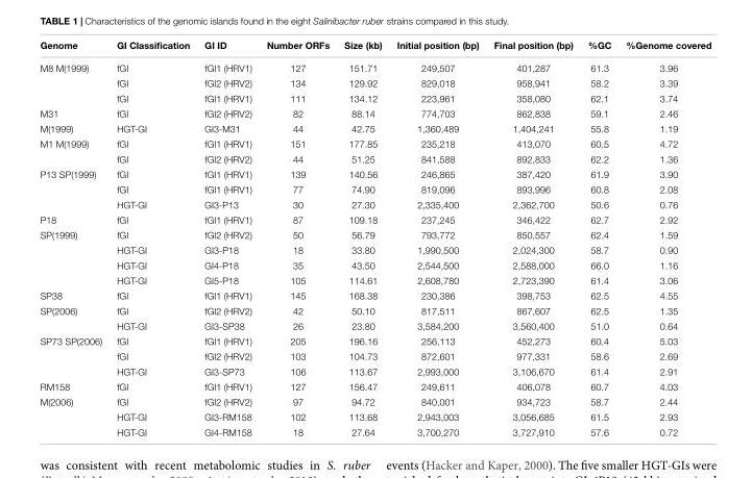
<table><thead><tr><td>Genome</td><td>GI Classification</td><td>GI ID</td><td>Number ORFs</td><td>Size (kb)</td><td>Initial position (bp)</td><td>Final position (bp)</td><td>%GC</td><td>%Genome covered</td></tr></thead><tbody><tr><td rowspan="3">M8 M(1999)</td><td>fGI</td><td>fGI1 (HRV1)</td><td>127</td><td>151.71</td><td>249,507</td><td>401,287</td><td>61.3</td><td>3.96</td></tr><tr><td>fGI</td><td>fGI2 (HRV2)</td><td>134</td><td>129.92</td><td>829,018</td><td>958,941</td><td>58.2</td><td>3.39</td></tr><tr><td>fGI</td><td>fGI1 (HRV1)</td><td>111</td><td>134.12</td><td>223,961</td><td>358,080</td><td>62.1</td><td>3.74</td></tr><tr><td>M31</td><td>fGI</td><td>fGI2 (HRV2)</td><td>82</td><td>88.14</td><td>774,703</td><td>862,838</td><td>59.1</td><td>2.46</td></tr><tr><td>M(1999)</td><td>HGT-GI</td><td>GI3-M31</td><td>44</td><td>42.75</td><td>1,360,489</td><td>1,404,241</td><td>55.8</td><td>1.19</td></tr><tr><td rowspan="2">M1 M(1999)</td><td>fGI</td><td>fGI1 (HRV1)</td><td>151</td><td>177.85</td><td>235,218</td><td>413,070</td><td>60.5</td><td>4.72</td></tr><tr><td>fGI</td><td>fGI2 (HRV2)</td><td>44</td><td>51.25</td><td>841,588</td><td>892,833</td><td>62.2</td><td>1.36</td></tr><tr><td rowspan="3">P13 SP(1999)</td><td>fGI</td><td>fGI1 (HRV1)</td><td>139</td><td>140.56</td><td>246,865</td><td>387,420</td><td>61.9</td><td>3.90</td></tr><tr><td>fGI</td><td>fGI1 (HRV1)</td><td>77</td><td>74.90</td><td>819,096</td><td>893,996</td><td>60.8</td><td>2.08</td></tr><tr><td>HGT-GI</td><td>GI3-P13</td><td>30</td><td>27.30</td><td>2,335,400</td><td>2,362,700</td><td>50.6</td><td>0.76</td></tr><tr><td>P18</td><td>fGI</td><td>fGI1 (HRV1)</td><td>87</td><td>109.18</td><td>237,245</td><td>346,422</td><td>62.7</td><td>2.92</td></tr><tr><td rowspan="4">SP(1999)</td><td>fGI</td><td>fGI2 (HRV2)</td><td>50</td><td>56.79</td><td>793,772</td><td>850,557</td><td>62.4</td><td>1.59</td></tr><tr><td>HGT-GI</td><td>GI3-P18</td><td>18</td><td>33.80</td><td>1,990,500</td><td>2,024,300</td><td>58.7</td><td>0.90</td></tr><tr><td>HGT-GI</td><td>GI4-P18</td><td>35</td><td>43.50</td><td>2,544,500</td><td>2,588,000</td><td>66.0</td><td>1.16</td></tr><tr><td>HGT-GI</td><td>GI5-P18</td><td>105</td><td>114.61</td><td>2,608,780</td><td>2,723,390</td><td>61.4</td><td>3.06</td></tr><tr><td>SP38</td><td>fGI</td><td>fGI1 (HRV1)</td><td>145</td><td>168.38</td><td>230,386</td><td>398,753</td><td>62.5</td><td>4.55</td></tr><tr><td rowspan="2">SP(2006)</td><td>fGI</td><td>fGI2 (HRV2)</td><td>42</td><td>50.10</td><td>817,511</td><td>867,607</td><td>62.5</td><td>1.35</td></tr><tr><td>HGT-GI</td><td>GI3-SP38</td><td>26</td><td>23.80</td><td>3,584,200</td><td>3,560,400</td><td>51.0</td><td>0.64</td></tr><tr><td rowspan="3">SP73 SP(2006)</td><td>fGI</td><td>fGI1 (HRV1)</td><td>205</td><td>196.16</td><td>256,113</td><td>452,273</td><td>60.4</td><td>5.03</td></tr><tr><td>fGI</td><td>fGI2 (HRV2)</td><td>103</td><td>104.73</td><td>872,601</td><td>977,331</td><td>58.6</td><td>2.69</td></tr><tr><td>HGT-GI</td><td>GI3-SP73</td><td>106</td><td>113.67</td><td>2,993,000</td><td>3,106,670</td><td>61.4</td><td>2.91</td></tr><tr><td>RM158</td><td>fGI</td><td>fGI1 (HRV1)</td><td>127</td><td>156.47</td><td>249,611</td><td>406,078</td><td>60.7</td><td>4.03</td></tr><tr><td rowspan="3">M(2006)</td><td>fGI</td><td>fGI2 (HRV2)</td><td>97</td><td>94.72</td><td>840,001</td><td>934,723</td><td>58.7</td><td>2.44</td></tr><tr><td>HGT-GI</td><td>GI3-RM158</td><td>102</td><td>113.68</td><td>2,943,003</td><td>3,056,685</td><td>61.5</td><td>2.93</td></tr><tr><td>HGT-GI</td><td>GI4-RM158</td><td>18</td><td>27.64</td><td>3,700,270</td><td>3,727,910</td><td>57.6</td><td>0.72</td></tr></tbody></table>